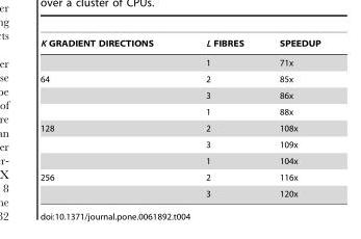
<table><thead><tr><td>K GRADIENT DIRECTIONS</td><td>L FIBRES</td><td>SPEEDUP</td></tr></thead><tbody><tr><td></td><td>1</td><td>71x</td></tr><tr><td rowspan="3">64</td><td>2</td><td>85x</td></tr><tr><td>3</td><td>86x</td></tr><tr><td>1</td><td>88x</td></tr><tr><td rowspan="3">128</td><td>2</td><td>108x</td></tr><tr><td>3</td><td>109x</td></tr><tr><td>1</td><td>104x</td></tr><tr><td rowspan="2">256</td><td>2</td><td>116x</td></tr><tr><td>3</td><td>120x</td></tr></tbody></table>